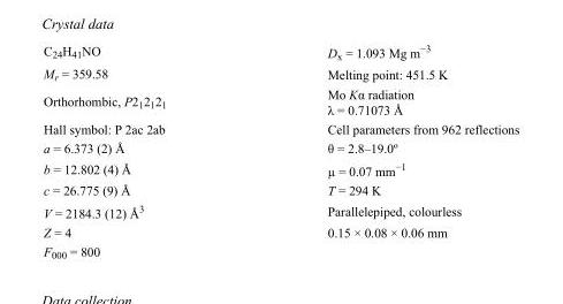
<table><tbody><tr><td>C<sub>24</sub>H<sub>41</sub>NO</td><td>D<sub>x</sub> = 1.093 Mg m<sup>−3</sup></td></tr><tr><td>M<sub>r</sub> = 359.58</td><td>Melting point: 451.5 K</td></tr><tr><td>Orthorhombic, P2<sub>1</sub>2<sub>1</sub>2<sub>1</sub></td><td>Mo Kα radiation λ = 0.71073 Å</td></tr><tr><td>Hall symbol: P 2ac 2ab</td><td>Cell parameters from 962 reflections</td></tr><tr><td>a = 6.373 (2) Å</td><td>θ = 2.8–19.0º</td></tr><tr><td>b = 12.802 (4) Å</td><td>µ = 0.07 mm<sup>−1</sup></td></tr><tr><td>c = 26.775 (9) Å</td><td>T = 294 K</td></tr><tr><td>V = 2184.3 (12) Å<sup>3</sup></td><td>Parallelepiped, colourless</td></tr><tr><td>Z = 4</td><td>0.15 × 0.08 × 0.06 mm</td></tr><tr><td>F000 = 800</td><td></td></tr></tbody></table>